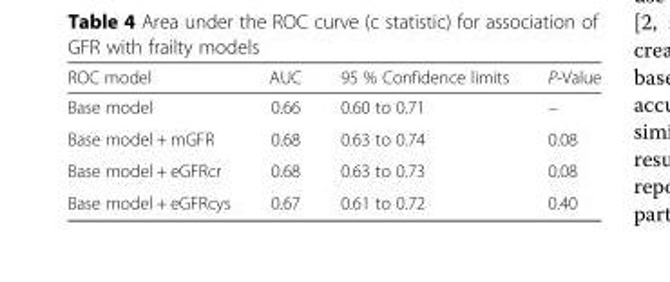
<table><thead><tr><td>ROC model</td><td>AUC</td><td>95 % Confidence limits</td><td>P-Value</td></tr></thead><tbody><tr><td>Base model</td><td>0.66</td><td>0.60 to 0.71</td><td>–</td></tr><tr><td>Base model + mGFR</td><td>0.68</td><td>0.63 to 0.74</td><td>0.08</td></tr><tr><td>Base model + eGFRcr</td><td>0.68</td><td>0.63 to 0.73</td><td>0.08</td></tr><tr><td>Base model + eGFRcys</td><td>0.67</td><td>0.61 to 0.72</td><td>0.40</td></tr></tbody></table>